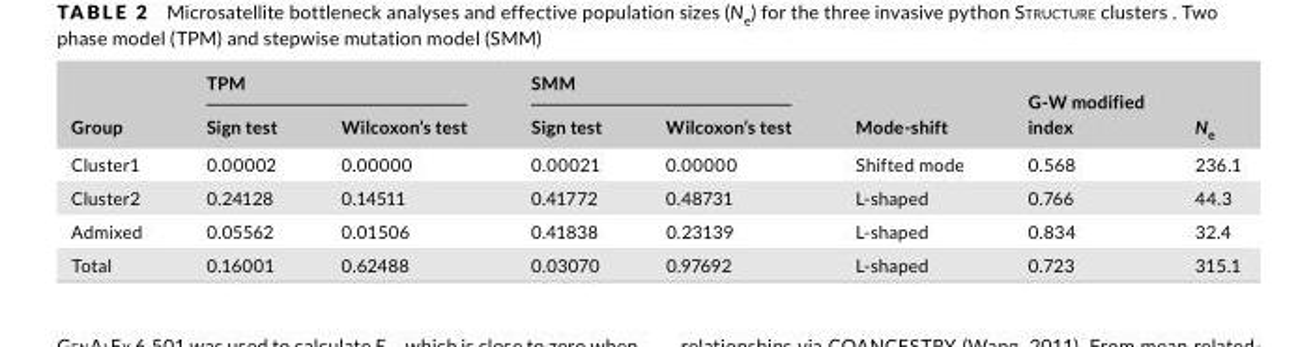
<table><thead><tr><td rowspan="2">Group</td><td colspan="2">TPM</td><td colspan="2">SMM</td><td rowspan="2">Mode- shift</td><td rowspan="2">G- W modified index</td><td rowspan="2">N<sub>e</sub></td></tr><tr><td>Sign test</td><td>Wilcoxon’s test</td><td>Sign test</td><td>Wilcoxon’s test</td></tr></thead><tbody><tr><td>Cluster1</td><td>0.00002</td><td>0.00000</td><td>0.00021</td><td>0.00000</td><td>Shifted mode</td><td>0.568</td><td>236.1</td></tr><tr><td>Cluster2</td><td>0.24128</td><td>0.14511</td><td>0.41772</td><td>0.48731</td><td>L- shaped</td><td>0.766</td><td>44.3</td></tr><tr><td>Admixed</td><td>0.05562</td><td>0.01506</td><td>0.41838</td><td>0.23139</td><td>L- shaped</td><td>0.834</td><td>32.4</td></tr><tr><td>Total</td><td>0.16001</td><td>0.62488</td><td>0.03070</td><td>0.97692</td><td>L- shaped</td><td>0.723</td><td>315.1</td></tr></tbody></table>